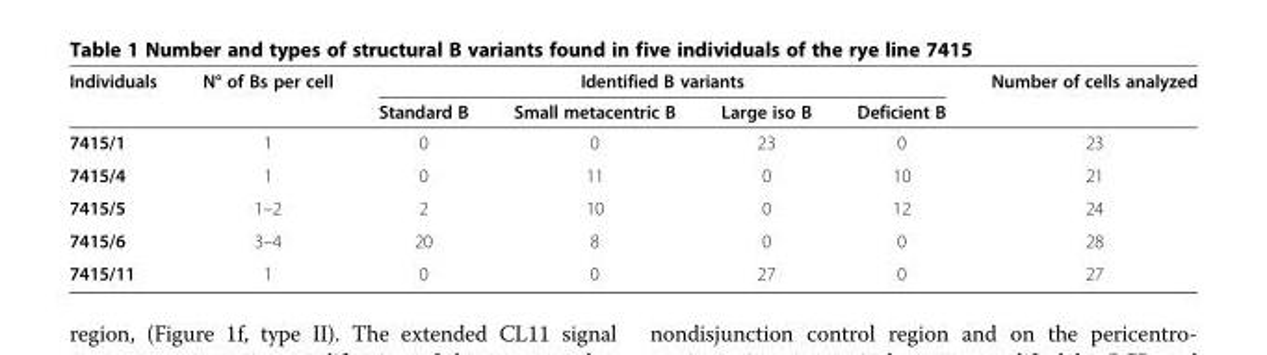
<table><thead><tr><td rowspan="2">Individuals</td><td rowspan="2">N° of Bs per cell</td><td colspan="4">Identified B variants</td><td rowspan="2">Number of cells analyzed</td></tr><tr><td>Standard B</td><td>Small metacentric B</td><td>Large iso B</td><td>Deficient B</td></tr></thead><tbody><tr><td>7415/1</td><td>1</td><td>0</td><td>0</td><td>23</td><td>0</td><td>23</td></tr><tr><td>7415/4</td><td>1</td><td>0</td><td>11</td><td>0</td><td>10</td><td>21</td></tr><tr><td>7415/5</td><td>1–2</td><td>2</td><td>10</td><td>0</td><td>12</td><td>24</td></tr><tr><td>7415/6</td><td>3–4</td><td>20</td><td>8</td><td>0</td><td>0</td><td>28</td></tr><tr><td>7415/11</td><td>1</td><td>0</td><td>0</td><td>27</td><td>0</td><td>27</td></tr></tbody></table>